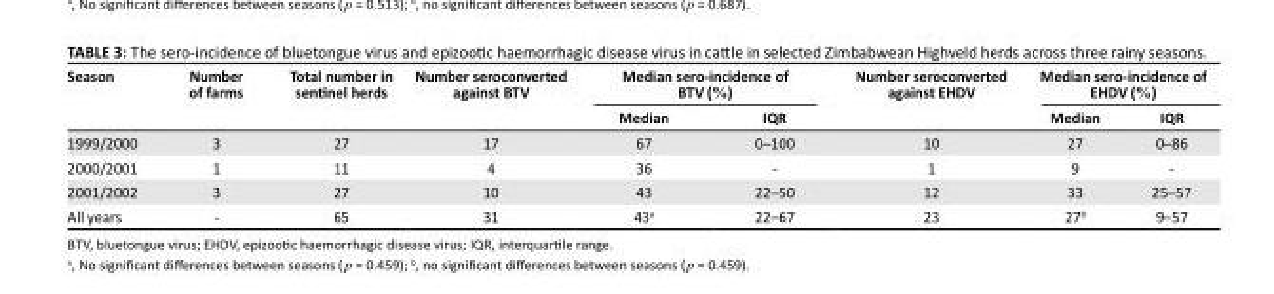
<table><thead><tr><td rowspan="2">Season</td><td rowspan="2">Number of farms</td><td rowspan="2">Total number in sentinel herds</td><td rowspan="2">Number seroconverted against BTV</td><td colspan="2">Median sero-incidence of BTV (%)</td><td rowspan="2">Number seroconverted against EHDV</td><td colspan="2">Median sero-incidence of EHDV (%)</td></tr><tr><td>Median</td><td>IQR</td><td>Median</td><td>IQR</td></tr></thead><tbody><tr><td>1999/2000</td><td>3</td><td>27</td><td>17</td><td>67</td><td>0–100</td><td>10</td><td>27</td><td>0–86</td></tr><tr><td>2000/2001</td><td>1</td><td>11</td><td>4</td><td>36</td><td>-</td><td>1</td><td>9</td><td>-</td></tr><tr><td>2001/2002</td><td>3</td><td>27</td><td>10</td><td>43</td><td>22–50</td><td>12</td><td>33</td><td>25–57</td></tr><tr><td>All years</td><td>-</td><td>65</td><td>31</td><td>43<sup>a</sup></td><td>22–67</td><td>23</td><td>27<sup>b</sup></td><td>9–57</td></tr></tbody></table>